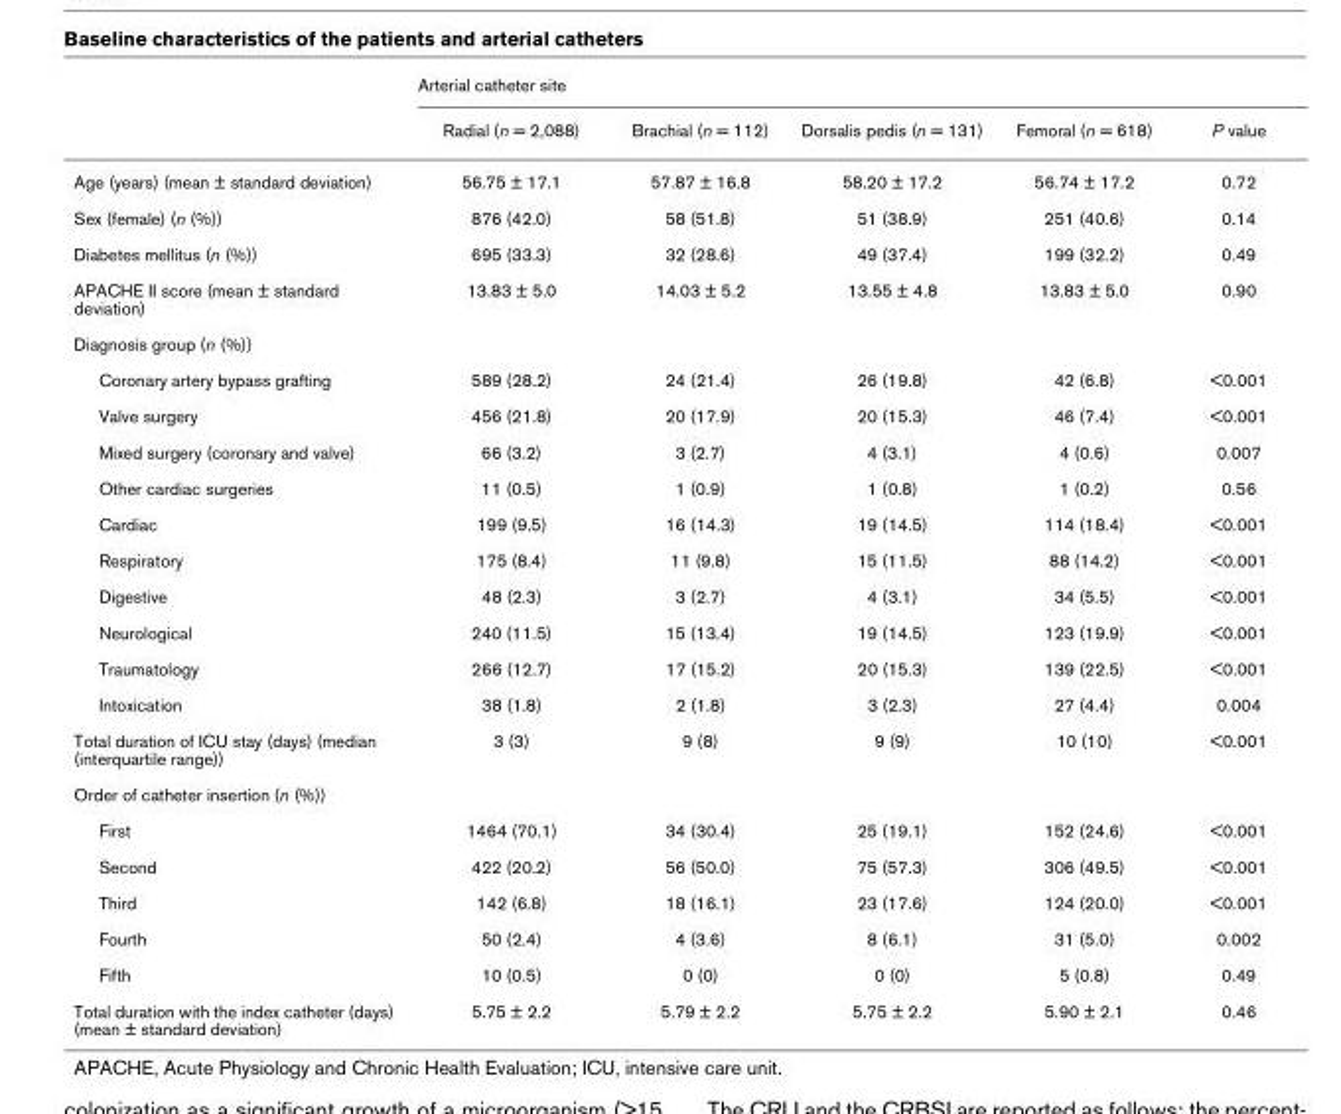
<table><thead><tr><td rowspan="2"></td><td colspan="5">Arterial catheter site</td></tr><tr><td>Radial (n = 2,088)</td><td>Brachial (n = 112)</td><td>Dorsalis pedis (n = 131)</td><td>Femoral (n = 618)</td><td>P value</td></tr></thead><tbody><tr><td>Age (years) (mean ± standard deviation)</td><td>56.75 ± 17.1</td><td>57.87 ± 16.8</td><td>58.20 ± 17.2</td><td>56.74 ± 17.2</td><td>0.72</td></tr><tr><td>Sex (female) (n (%))</td><td>876 (42.0)</td><td>58 (51.8)</td><td>51 (38.9)</td><td>251 (40.6)</td><td>0.14</td></tr><tr><td>Diabetes mellitus (n (%))</td><td>695 (33.3)</td><td>32 (28.6)</td><td>49 (37.4)</td><td>199 (32.2)</td><td>0.49</td></tr><tr><td>APACHE II score (mean ± standard deviation)</td><td>13.83 ± 5.0</td><td>14.03 ± 5.2</td><td>13.55 ± 4.8</td><td>13.83 ± 5.0</td><td>0.90</td></tr><tr><td colspan="6">Diagnosis group (n (%))</td></tr><tr><td>Coronary artery bypass grafting</td><td>589 (28.2)</td><td>24 (21.4)</td><td>26 (19.8)</td><td>42 (6.8)</td><td>&lt;0.001</td></tr><tr><td>Valve surgery</td><td>456 (21.8)</td><td>20 (17.9)</td><td>20 (15.3)</td><td>46 (7.4)</td><td>&lt;0.001</td></tr><tr><td>Mixed surgery (coronary and valve)</td><td>66 (3.2)</td><td>3 (2.7)</td><td>4 (3.1)</td><td>4 (0.6)</td><td>0.007</td></tr><tr><td>Other cardiac surgeries</td><td>11 (0.5)</td><td>1 (0.9)</td><td>1 (0.8)</td><td>1 (0.2)</td><td>0.56</td></tr><tr><td>Cardiac</td><td>199 (9.5)</td><td>16 (14.3)</td><td>19 (14.5)</td><td>114 (18.4)</td><td>&lt;0.001</td></tr><tr><td>Respiratory</td><td>175 (8.4)</td><td>11 (9.8)</td><td>15 (11.5)</td><td>88 (14.2)</td><td>&lt;0.001</td></tr><tr><td>Digestive</td><td>48 (2.3)</td><td>3 (2.7)</td><td>4 (3.1)</td><td>34 (5.5)</td><td>&lt;0.001</td></tr><tr><td>Neurological</td><td>240 (11.5)</td><td>15 (13.4)</td><td>19 (14.5)</td><td>123 (19.9)</td><td>&lt;0.001</td></tr><tr><td>Traumatology</td><td>266 (12.7)</td><td>17 (15.2)</td><td>20 (15.3)</td><td>139 (22.5)</td><td>&lt;0.001</td></tr><tr><td>Intoxication</td><td>38 (1.8)</td><td>2 (1.8)</td><td>3 (2.3)</td><td>27 (4.4)</td><td>0.004</td></tr><tr><td>Total duration of ICU stay (days) (median (interquartile range))</td><td>3 (3)</td><td>9 (8)</td><td>9 (9)</td><td>10 (10)</td><td>&lt;0.001</td></tr><tr><td colspan="6">Order of catheter insertion (n (%))</td></tr><tr><td>First</td><td>1464 (70.1)</td><td>34 (30.4)</td><td>25 (19.1)</td><td>152 (24.6)</td><td>&lt;0.001</td></tr><tr><td>Second</td><td>422 (20.2)</td><td>56 (50.0)</td><td>75 (57.3)</td><td>306 (49.5)</td><td>&lt;0.001</td></tr><tr><td>Third</td><td>142 (6.8)</td><td>18 (16.1)</td><td>23 (17.6)</td><td>124 (20.0)</td><td>&lt;0.001</td></tr><tr><td>Fourth</td><td>50 (2.4)</td><td>4 (3.6)</td><td>8 (6.1)</td><td>31 (5.0)</td><td>0.002</td></tr><tr><td>Fifth</td><td>10 (0.5)</td><td>0 (0)</td><td>0 (0)</td><td>5 (0.8)</td><td>0.49</td></tr><tr><td>Total duration with the index catheter (days) (mean ± standard deviation)</td><td>5.75 ± 2.2</td><td>5.79 ± 2.2</td><td>5.75 ± 2.2</td><td>5.90 ± 2.1</td><td>0.46</td></tr></tbody></table>